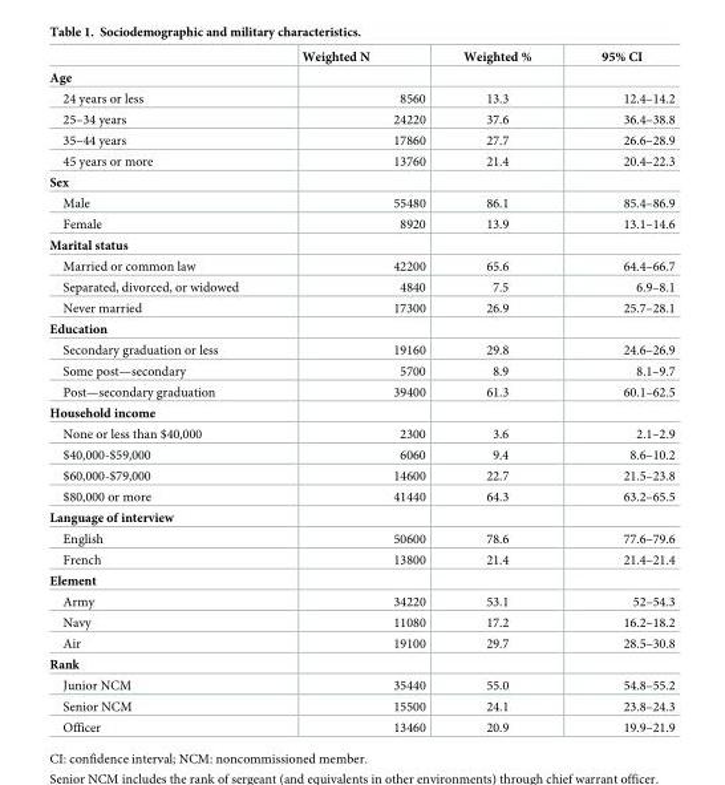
<table><thead><tr><td></td><td>Weighted N</td><td>Weighted %</td><td>95% CI</td></tr></thead><tbody><tr><td colspan="4">Age</td></tr><tr><td>24 years or less</td><td>8560</td><td>13.3</td><td>12.4–14.2</td></tr><tr><td>25–34 years</td><td>24220</td><td>37.6</td><td>36.4–38.8</td></tr><tr><td>35–44 years</td><td>17860</td><td>27.7</td><td>26.6–28.9</td></tr><tr><td>45 years or more</td><td>13760</td><td>21.4</td><td>20.4–22.3</td></tr><tr><td colspan="4">Sex</td></tr><tr><td>Male</td><td>55480</td><td>86.1</td><td>85.4–86.9</td></tr><tr><td>Female</td><td>8920</td><td>13.9</td><td>13.1–14.6</td></tr><tr><td colspan="4">Marital status</td></tr><tr><td>Married or common law</td><td>42200</td><td>65.6</td><td>64.4–66.7</td></tr><tr><td>Separated, divorced, or widowed</td><td>4840</td><td>7.5</td><td>6.9–8.1</td></tr><tr><td>Never married</td><td>17300</td><td>26.9</td><td>25.7–28.1</td></tr><tr><td colspan="4">Education</td></tr><tr><td>Secondary graduation or less</td><td>19160</td><td>29.8</td><td>24.6–26.9</td></tr><tr><td>Some post—secondary</td><td>5700</td><td>8.9</td><td>8.1–9.7</td></tr><tr><td>Post—secondary graduation</td><td>39400</td><td>61.3</td><td>60.1–62.5</td></tr><tr><td colspan="4">Household income</td></tr><tr><td>None or less than $40,000</td><td>2300</td><td>3.6</td><td>2.1–2.9</td></tr><tr><td>$40,000-$59,000</td><td>6060</td><td>9.4</td><td>8.6–10.2</td></tr><tr><td>$60,000-$79,000</td><td>14600</td><td>22.7</td><td>21.5–23.8</td></tr><tr><td>$80,000 or more</td><td>41440</td><td>64.3</td><td>63.2–65.5</td></tr><tr><td colspan="4">Language of interview</td></tr><tr><td>English</td><td>50600</td><td>78.6</td><td>77.6–79.6</td></tr><tr><td>French</td><td>13800</td><td>21.4</td><td>21.4–21.4</td></tr><tr><td colspan="4">Element</td></tr><tr><td>Army</td><td>34220</td><td>53.1</td><td>52–54.3</td></tr><tr><td>Navy</td><td>11080</td><td>17.2</td><td>16.2–18.2</td></tr><tr><td>Air</td><td>19100</td><td>29.7</td><td>28.5–30.8</td></tr><tr><td colspan="4">Rank</td></tr><tr><td>Junior NCM</td><td>35440</td><td>55.0</td><td>54.8–55.2</td></tr><tr><td>Senior NCM</td><td>15500</td><td>24.1</td><td>23.8–24.3</td></tr><tr><td>Officer</td><td>13460</td><td>20.9</td><td>19.9–21.9</td></tr></tbody></table>